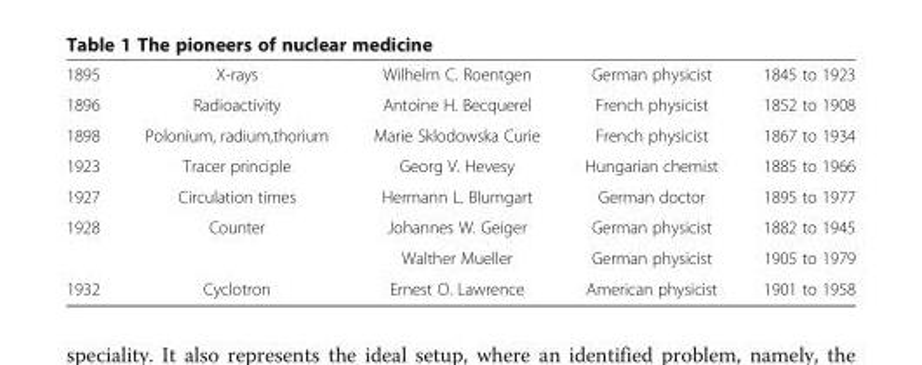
<table><tbody><tr><td>1895</td><td>X-rays</td><td>Wilhelm C. Roentgen</td><td>German physicist</td><td>1845 to 1923</td></tr><tr><td>1896</td><td>Radioactivity</td><td>Antoine H. Becquerel</td><td>French physicist</td><td>1852 to 1908</td></tr><tr><td>1898</td><td>Polonium, radium,thorium</td><td>Marie Sklodowska Curie</td><td>French physicist</td><td>1867 to 1934</td></tr><tr><td>1923</td><td>Tracer principle</td><td>Georg V. Hevesy</td><td>Hungarian chemist</td><td>1885 to 1966</td></tr><tr><td>1927</td><td>Circulation times</td><td>Hermann L. Blumgart</td><td>German doctor</td><td>1895 to 1977</td></tr><tr><td rowspan="2">1928</td><td>Counter</td><td>Johannes W. Geiger</td><td>German physicist</td><td>1882 to 1945</td></tr><tr><td></td><td>Walther Mueller</td><td>German physicist</td><td>1905 to 1979</td></tr><tr><td>1932</td><td>Cyclotron</td><td>Ernest O. Lawrence</td><td>American physicist</td><td>1901 to 1958</td></tr></tbody></table>